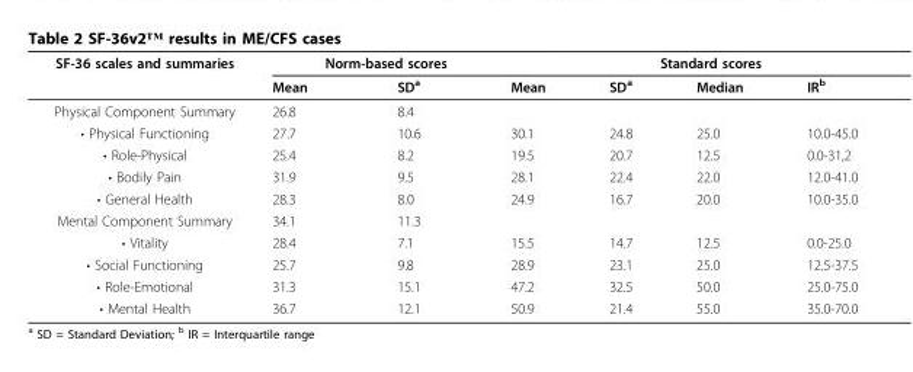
<table><thead><tr><td rowspan="2">SF-36 scales and summaries</td><td colspan="2">Norm-based scores</td><td colspan="4">Standard scores</td></tr><tr><td>Mean</td><td>SD<sup>a</sup></td><td>Mean</td><td>SD<sup>a</sup></td><td>Median</td><td>IR<sup>b</sup></td></tr></thead><tbody><tr><td>Physical Component Summary</td><td>26.8</td><td>8.4</td><td></td><td></td><td></td><td></td></tr><tr><td>• Physical Functioning</td><td>27.7</td><td>10.6</td><td>30.1</td><td>24.8</td><td>25.0</td><td>10.0-45.0</td></tr><tr><td>• Role-Physical</td><td>25.4</td><td>8.2</td><td>19.5</td><td>20.7</td><td>12.5</td><td>0.0-31,2</td></tr><tr><td>• Bodily Pain</td><td>31.9</td><td>9.5</td><td>28.1</td><td>22.4</td><td>22.0</td><td>12.0-41.0</td></tr><tr><td>• General Health</td><td>28.3</td><td>8.0</td><td>24.9</td><td>16.7</td><td>20.0</td><td>10.0-35.0</td></tr><tr><td>Mental Component Summary</td><td>34.1</td><td>11.3</td><td></td><td></td><td></td><td></td></tr><tr><td>• Vitality</td><td>28.4</td><td>7.1</td><td>15.5</td><td>14.7</td><td>12.5</td><td>0.0-25.0</td></tr><tr><td>• Social Functioning</td><td>25.7</td><td>9.8</td><td>28.9</td><td>23.1</td><td>25.0</td><td>12.5-37.5</td></tr><tr><td>• Role-Emotional</td><td>31.3</td><td>15.1</td><td>47.2</td><td>32.5</td><td>50.0</td><td>25.0-75.0</td></tr><tr><td>• Mental Health</td><td>36.7</td><td>12.1</td><td>50.9</td><td>21.4</td><td>55.0</td><td>35.0-70.0</td></tr></tbody></table>